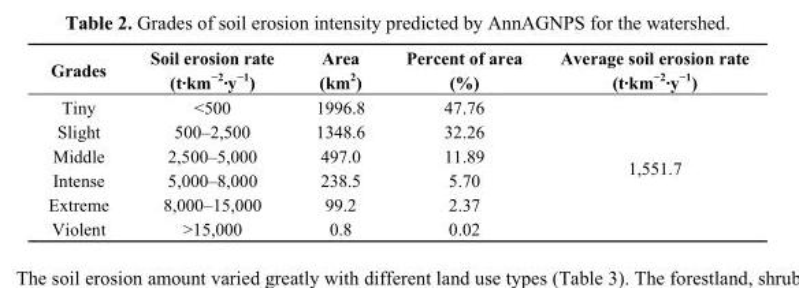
<table><thead><tr><td>Grades</td><td>Soil erosion rate (t·km<sup>−2</sup>·y<sup>−1</sup>)</td><td>Area (km<sup>2</sup>)</td><td>Percent of area (%)</td><td>Average soil erosion rate (t·km<sup>−2</sup>·y<sup>−1</sup>)</td></tr></thead><tbody><tr><td>Tiny</td><td>&lt;500</td><td>1996.8</td><td>47.76</td><td rowspan="6">1,551.7</td></tr><tr><td>Slight</td><td>500–2,500</td><td>1348.6</td><td>32.26</td></tr><tr><td>Middle</td><td>2,500–5,000</td><td>497.0</td><td>11.89</td></tr><tr><td>Intense</td><td>5,000–8,000</td><td>238.5</td><td>5.70</td></tr><tr><td>Extreme</td><td>8,000–15,000</td><td>99.2</td><td>2.37</td></tr><tr><td>Violent</td><td>&gt;15,000</td><td>0.8</td><td>0.02</td></tr></tbody></table>